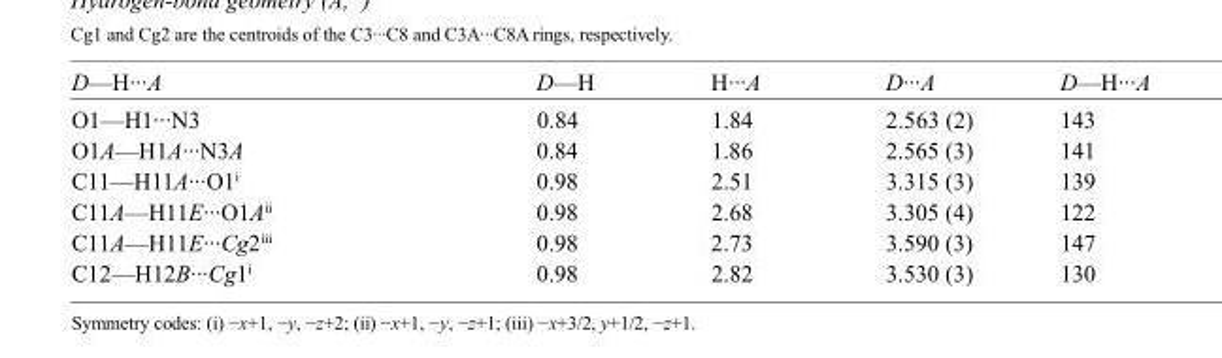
<table><tbody><tr><td>D—H···A</td><td>D—H</td><td>H···A</td><td>D···A</td><td>D—H···A</td></tr><tr><td>O1—H1···N3</td><td>0.84</td><td>1.84</td><td>2.563 (2)</td><td>143</td></tr><tr><td>O1A—H1A···N3A</td><td>0.84</td><td>1.86</td><td>2.565 (3)</td><td>141</td></tr><tr><td>C11—H11A···O1<sup>i</sup></td><td>0.98</td><td>2.51</td><td>3.315 (3)</td><td>139</td></tr><tr><td>C11A—H11E···O1A<sup>ii</sup></td><td>0.98</td><td>2.68</td><td>3.305 (4)</td><td>122</td></tr><tr><td>C11A—H11E···Cg2<sup>iii</sup></td><td>0.98</td><td>2.73</td><td>3.590 (3)</td><td>147</td></tr><tr><td>C12—H12B···Cg1<sup>i</sup></td><td>0.98</td><td>2.82</td><td>3.530 (3)</td><td>130</td></tr></tbody></table>